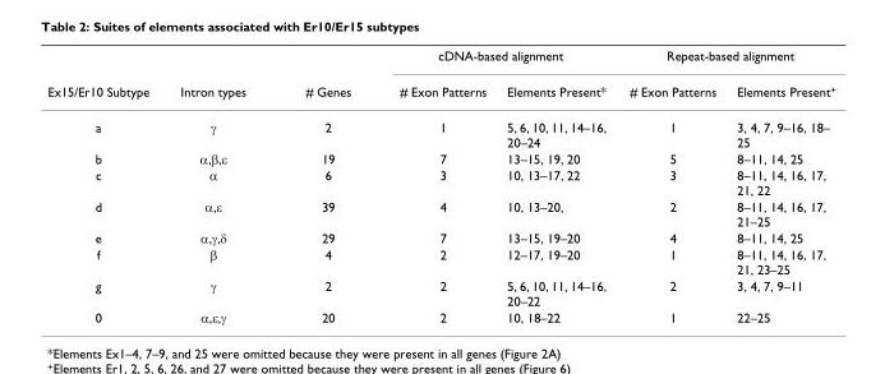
<table><thead><tr><td rowspan="2">Ex15/Er10 Subtype</td><td rowspan="2">Intron types</td><td rowspan="2"># Genes</td><td colspan="2">cDNA-based alignment</td><td colspan="2">Repeat-based alignment</td></tr><tr><td># Exon Patterns</td><td>Elements Present*</td><td># Exon Patterns</td><td>Elements Present<sup>+</sup></td></tr></thead><tbody><tr><td>a</td><td>γ</td><td>2</td><td>1</td><td>5, 6, 10, 11, 14–16, 20–24</td><td>1</td><td>3, 4, 7, 9–16, 18– 25</td></tr><tr><td>b</td><td>α,β,ε</td><td>19</td><td>7</td><td>13–15, 19, 20</td><td>5</td><td>8–11, 14, 25</td></tr><tr><td>c</td><td>α</td><td>6</td><td>3</td><td>10, 13–17, 22</td><td>3</td><td>8–11, 14, 16, 17, 21, 22</td></tr><tr><td>d</td><td>α,ε</td><td>39</td><td>4</td><td>10, 13–20,</td><td>2</td><td>8–11, 14, 16, 17, 21–25</td></tr><tr><td>e</td><td>α,γ,δ</td><td>29</td><td>7</td><td>13–15, 19–20</td><td>4</td><td>8–11, 14, 25</td></tr><tr><td>f</td><td>β</td><td>4</td><td>2</td><td>12–17, 19–20</td><td>1</td><td>8–11, 14, 16, 17, 21, 23–25</td></tr><tr><td>g</td><td>γ</td><td>2</td><td>2</td><td>5, 6, 10, 11, 14–16, 20–22</td><td>2</td><td>3, 4, 7, 9–11</td></tr><tr><td>0</td><td>α,ε,γ</td><td>20</td><td>2</td><td>10, 18–22</td><td>1</td><td>22–25</td></tr></tbody></table>